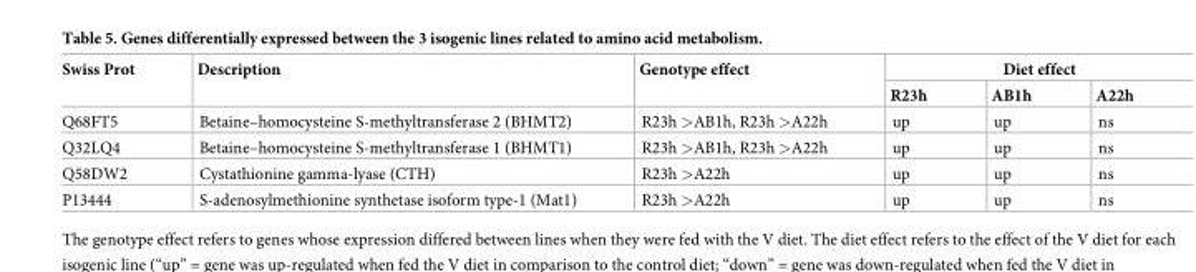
<table><thead><tr><td rowspan="2">Swiss Prot</td><td rowspan="2">Description</td><td rowspan="2">Genotype effect</td><td colspan="3">Diet effect</td></tr><tr><td>R23h</td><td>AB1h</td><td>A22h</td></tr></thead><tbody><tr><td>Q68FT5</td><td>Betaine–homocysteine S-methyltransferase 2 (BHMT2)</td><td>R23h &gt;AB1h, R23h &gt;A22h</td><td>up</td><td>up</td><td>ns</td></tr><tr><td>Q32LQ4</td><td>Betaine–homocysteine S-methyltransferase 1 (BHMT1)</td><td>R23h &gt;AB1h, R23h &gt;A22h</td><td>up</td><td>up</td><td>ns</td></tr><tr><td>Q58DW2</td><td>Cystathionine gamma-lyase (CTH)</td><td>R23h &gt;A22h</td><td>up</td><td>up</td><td>ns</td></tr><tr><td>P13444</td><td>S-adenosylmethionine synthetase isoform type-1 (Mat1)</td><td>R23h &gt;A22h</td><td>up</td><td>up</td><td>ns</td></tr></tbody></table>